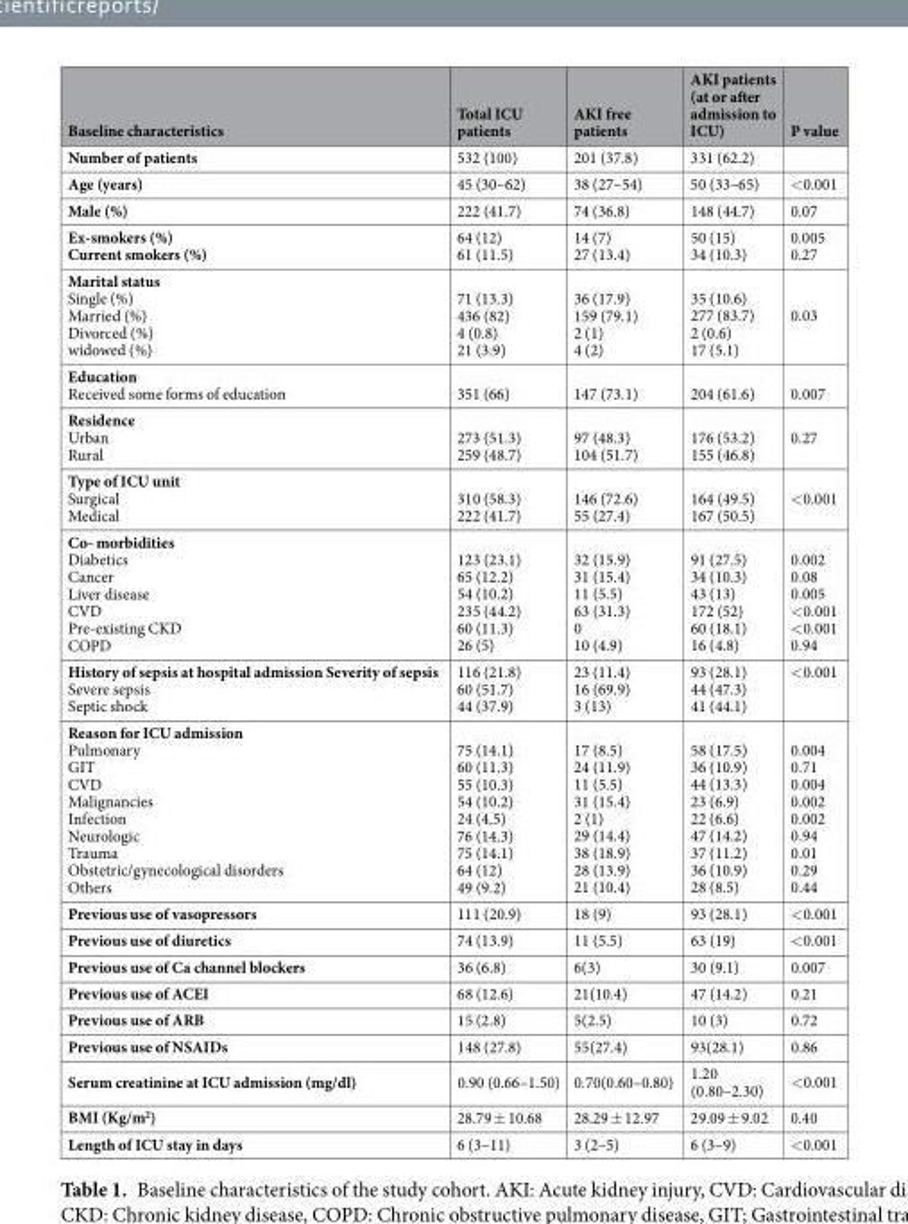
<table><thead><tr><td>Baseline characteristics</td><td>Total ICU patients</td><td>AKI free patients</td><td>AKI patients (at or after admission to ICU)</td><td>P value</td></tr></thead><tbody><tr><td>Number of patients</td><td>532 (100)</td><td>201 (37.8)</td><td>331 (62.2)</td><td></td></tr><tr><td>Age (years)</td><td>45 (30–62)</td><td>38 (27–54)</td><td>50 (33–65)</td><td>&lt;0.001</td></tr><tr><td>Male (%)</td><td>222 (41.7)</td><td>74 (36.8)</td><td>148 (44.7)</td><td>0.07</td></tr><tr><td>Ex-smokers (%) Current smokers (%)</td><td>64 (12) 61 (11.5)</td><td>14 (7) 27 (13.4)</td><td>50 (15) 34 (10.3)</td><td>0.005 0.27</td></tr><tr><td>Marital status Single (%) Married (%) Divorced (%) widowed (%)</td><td>71 (13.3) 436 (82) 4 (0.8) 21 (3.9)</td><td>36 (17.9) 159 (79.1) 2 (1) 4 (2)</td><td>35 (10.6) 277 (83.7) 2 (0.6) 17 (5.1)</td><td>0.03</td></tr><tr><td>Education Received some forms of education</td><td>351 (66)</td><td>147 (73.1)</td><td>204 (61.6)</td><td>0.007</td></tr><tr><td>Residence Urban Rural</td><td>273 (51.3) 259 (48.7)</td><td>97 (48.3) 104 (51.7)</td><td>176 (53.2) 155 (46.8)</td><td>0.27</td></tr><tr><td>Type of ICU unit Surgical Medical</td><td>310 (58.3) 222 (41.7)</td><td>146 (72.6) 55 (27.4)</td><td>164 (49.5) 167 (50.5)</td><td>&lt;0.001</td></tr><tr><td>Co- morbidities Diabetics Cancer Liver disease CVD Pre-existing CKD COPD</td><td>123 (23.1) 65 (12.2) 54 (10.2) 235 (44.2) 60 (11.3) 26 (5)</td><td>32 (15.9) 31 (15.4) 11 (5.5) 63 (31.3) 0 10 (4.9)</td><td>91 (27.5) 34 (10.3) 43 (13) 172 (52) 60 (18.1) 16 (4.8)</td><td>0.002 0.08 0.005 &lt;0.001 &lt;0.001 0.94</td></tr><tr><td>History of sepsis at hospital admission Severity of sepsis Severe sepsis Septic shock</td><td>116 (21.8) 60 (51.7) 44 (37.9)</td><td>23 (11.4) 16 (69.9) 3 (13)</td><td>93 (28.1) 44 (47.3) 41 (44.1)</td><td>&lt;0.001</td></tr><tr><td>Reason for ICU admission Pulmonary GIT CVD Malignancies Infection Neurologic Trauma Obstetric/gynecological disorders Others</td><td>75 (14.1) 60 (11.3) 55 (10.3) 54 (10.2) 24 (4.5) 76 (14.3) 75 (14.1) 64 (12) 49 (9.2)</td><td>17 (8.5) 24 (11.9) 11 (5.5) 31 (15.4) 2 (1) 29 (14.4) 38 (18.9) 28 (13.9) 21 (10.4)</td><td>58 (17.5) 36 (10.9) 44 (13.3) 23 (6.9) 22 (6.6) 47 (14.2) 37 (11.2) 36 (10.9) 28 (8.5)</td><td>0.004 0.71 0.004 0.002 0.002 0.94 0.01 0.29 0.44</td></tr><tr><td>Previous use of vasopressors</td><td>111 (20.9)</td><td>18 (9)</td><td>93 (28.1)</td><td>&lt;0.001</td></tr><tr><td>Previous use of diuretics</td><td>74 (13.9)</td><td>11 (5.5)</td><td>63 (19)</td><td>&lt;0.001</td></tr><tr><td>Previous use of Ca channel blockers</td><td>36 (6.8)</td><td>6(3)</td><td>30 (9.1)</td><td>0.007</td></tr><tr><td>Previous use of ACEI</td><td>68 (12.6)</td><td>21(10.4)</td><td>47 (14.2)</td><td>0.21</td></tr><tr><td>Previous use of ARB</td><td>15 (2.8)</td><td>5(2.5)</td><td>10 (3)</td><td>0.72</td></tr><tr><td>Previous use of NSAIDs</td><td>148 (27.8)</td><td>55(27.4)</td><td>93(28.1)</td><td>0.86</td></tr><tr><td>Serum creatinine at ICU admission (mg/dl)</td><td>0.90 (0.66–1.50)</td><td>0.70(0.60–0.80)</td><td>1.20 (0.80–2.30)</td><td>&lt;0.001</td></tr><tr><td>BMI (Kg/m<sup>2</sup>)</td><td>28.79 ± 10.68</td><td>28.29 ± 12.97</td><td>29.09 ± 9.02</td><td>0.40</td></tr><tr><td>Length of ICU stay in days</td><td>6 (3–11)</td><td>3 (2–5)</td><td>6 (3–9)</td><td>&lt;0.001</td></tr></tbody></table>